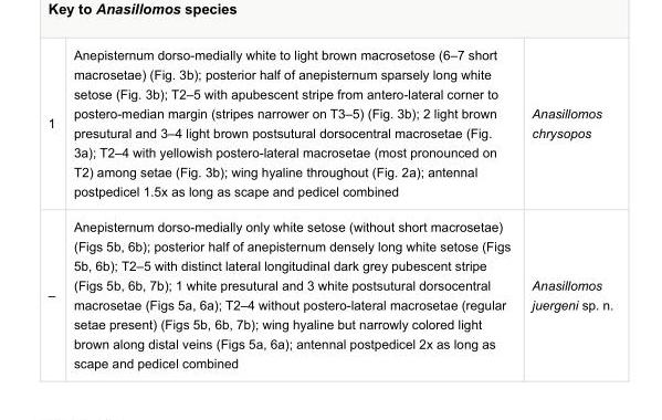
<table><tbody><tr><td>1</td><td>Anepisternum dorso-medially white to light brown macrosetose (6–7 short macrosetae) (Fig. 3b); posterior half of anepisternum sparsely long white setose (Fig. 3b); T2–5 with apubescent stripe from antero-lateral corner to postero-median margin (stripes narrower on T3–5) (Fig. 3b); 2 light brown presutural and 3–4 light brown postsutural dorsocentral macrosetae (Fig. 3a); T2–4 with yellowish postero-lateral macrosetae (most pronounced on T2) among setae (Fig. 3b); wing hyaline throughout (Fig. 2a); antennal postpedicel 1.5x as long as scape and pedicel combined</td><td>Anasillomos chrysopos</td></tr><tr><td>–</td><td>Anepisternum dorso-medially only white setose (without short macrosetae) (Figs 5b, 6b); posterior half of anepisternum densely long white setose (Figs 5b, 6b); T2–5 with distinct lateral longitudinal dark grey pubescent stripe (Figs 5b, 6b, 7b); 1 white presutural and 3 white postsutural dorsocentral macrosetae (Figs 5a, 6a); T2–4 without postero-lateral macrosetae (regular setae present) (Figs 5b, 6b, 7b); wing hyaline but narrowly colored light brown along distal veins (Figs 5a, 6a); antennal postpedicel 2x as long as scape and pedicel combined</td><td>Anasillomos juergeni sp. n.</td></tr></tbody></table>